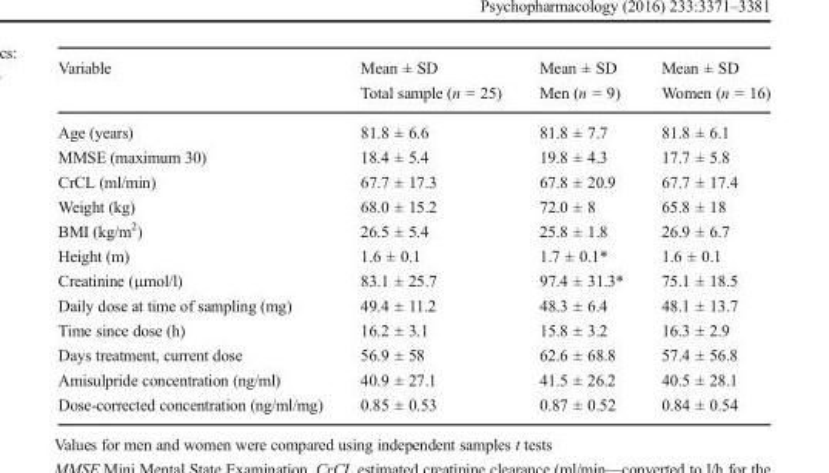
<table><thead><tr><td>Variable</td><td>Mean ± SD Total sample (n = 25)</td><td>Mean ± SD Men (n = 9)</td><td>Mean ± SD Women (n = 16)</td></tr></thead><tbody><tr><td>Age (years)</td><td>81.8 ± 6.6</td><td>81.8 ± 7.7</td><td>81.8 ± 6.1</td></tr><tr><td>MMSE (maximum 30)</td><td>18.4 ± 5.4</td><td>19.8 ± 4.3</td><td>17.7 ± 5.8</td></tr><tr><td>CrCL (ml/min)</td><td>67.7 ± 17.3</td><td>67.8 ± 20.9</td><td>67.7 ± 17.4</td></tr><tr><td>Weight (kg)</td><td>68.0 ± 15.2</td><td>72.0 ± 8</td><td>65.8 ± 18</td></tr><tr><td>BMI (kg/m<sup>2</sup>)</td><td>26.5 ± 5.4</td><td>25.8 ± 1.8</td><td>26.9 ± 6.7</td></tr><tr><td>Height (m)</td><td>1.6 ± 0.1</td><td>1.7 ± 0.1*</td><td>1.6 ± 0.1</td></tr><tr><td>Creatinine (μmol/l)</td><td>83.1 ± 25.7</td><td>97.4 ± 31.3*</td><td>75.1 ± 18.5</td></tr><tr><td>Daily dose at time of sampling (mg)</td><td>49.4 ± 11.2</td><td>48.3 ± 6.4</td><td>48.1 ± 13.7</td></tr><tr><td>Time since dose (h)</td><td>16.2 ± 3.1</td><td>15.8 ± 3.2</td><td>16.3 ± 2.9</td></tr><tr><td>Days treatment, current dose</td><td>56.9 ± 58</td><td>62.6 ± 68.8</td><td>57.4 ± 56.8</td></tr><tr><td>Amisulpride concentration (ng/ml)</td><td>40.9 ± 27.1</td><td>41.5 ± 26.2</td><td>40.5 ± 28.1</td></tr><tr><td>Dose-corrected concentration (ng/ml/mg)</td><td>0.85 ± 0.53</td><td>0.87 ± 0.52</td><td>0.84 ± 0.54</td></tr></tbody></table>